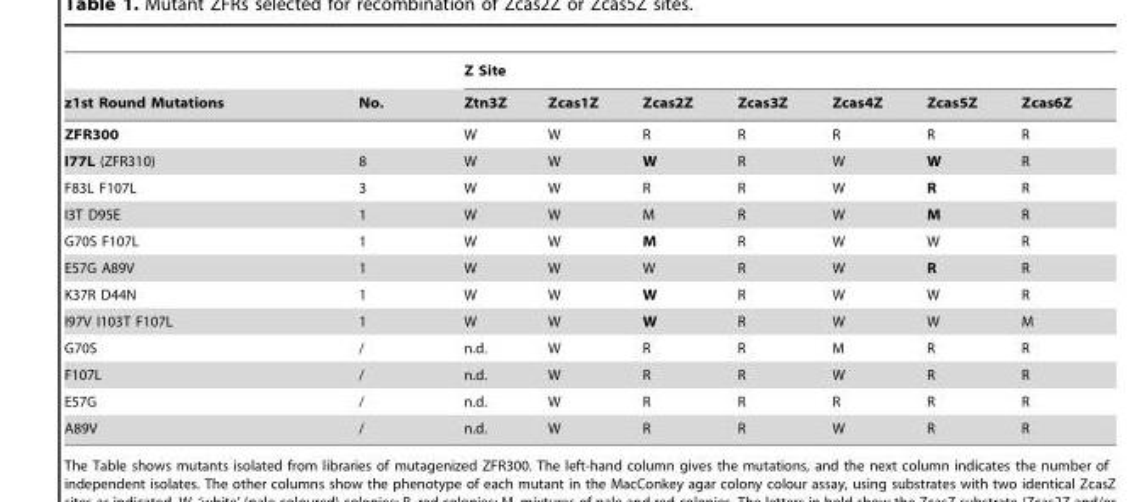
<table><thead><tr><td rowspan="2">z1st Round Mutations</td><td rowspan="2">No.</td><td colspan="7">Z Site</td></tr><tr><td>Ztn3Z</td><td>Zcas1Z</td><td>Zcas2Z</td><td>Zcas3Z</td><td>Zcas4Z</td><td>Zcas5Z</td><td>Zcas6Z</td></tr></thead><tbody><tr><td>ZFR300</td><td></td><td>W</td><td>W</td><td>R</td><td>R</td><td>R</td><td>R</td><td>R</td></tr><tr><td>I77L (ZFR310)</td><td>8</td><td>W</td><td>W</td><td>W</td><td>R</td><td>W</td><td>W</td><td>R</td></tr><tr><td>F83L F107L</td><td>3</td><td>W</td><td>W</td><td>R</td><td>R</td><td>W</td><td>R</td><td>R</td></tr><tr><td>I3T D95E</td><td>1</td><td>W</td><td>W</td><td>M</td><td>R</td><td>W</td><td>M</td><td>R</td></tr><tr><td>G70S F107L</td><td>1</td><td>W</td><td>W</td><td>M</td><td>R</td><td>W</td><td>W</td><td>R</td></tr><tr><td>E57G A89V</td><td>1</td><td>W</td><td>W</td><td>W</td><td>R</td><td>W</td><td>R</td><td>R</td></tr><tr><td>K37R D44N</td><td>1</td><td>W</td><td>W</td><td>W</td><td>R</td><td>W</td><td>W</td><td>R</td></tr><tr><td>I97V I103T F107L</td><td>1</td><td>W</td><td>W</td><td>W</td><td>R</td><td>W</td><td>W</td><td>M</td></tr><tr><td>G70S</td><td>/</td><td>n.d.</td><td>W</td><td>R</td><td>R</td><td>M</td><td>R</td><td>R</td></tr><tr><td>F107L</td><td>/</td><td>n.d.</td><td>W</td><td>R</td><td>R</td><td>W</td><td>R</td><td>R</td></tr><tr><td>E57G</td><td>/</td><td>n.d.</td><td>W</td><td>R</td><td>R</td><td>R</td><td>R</td><td>R</td></tr><tr><td>A89V</td><td>/</td><td>n.d.</td><td>W</td><td>R</td><td>R</td><td>W</td><td>R</td><td>R</td></tr></tbody></table>